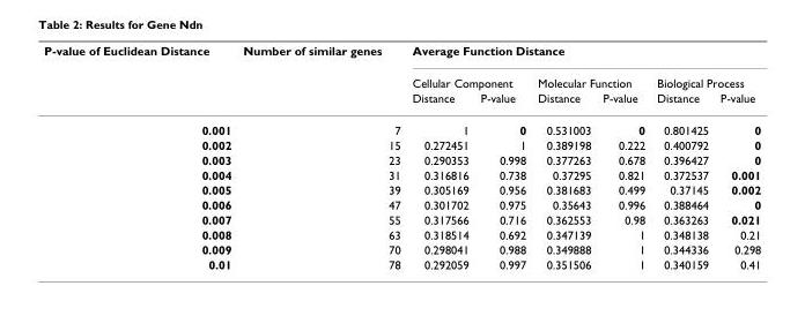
<table><thead><tr><td rowspan="3">P-value of Euclidean Distance</td><td rowspan="3">Number of similar genes</td><td colspan="6">Average Function Distance</td></tr><tr><td colspan="2">Cellular Component</td><td colspan="2">Molecular Function</td><td colspan="2">Biological Process</td></tr><tr><td>Distance</td><td>P-value</td><td>Distance</td><td>P-value</td><td>Distance</td><td>P-value</td></tr></thead><tbody><tr><td>0.001</td><td>7</td><td>1</td><td>0</td><td>0.531003</td><td>0</td><td>0.801425</td><td>0</td></tr><tr><td>0.002</td><td>15</td><td>0.272451</td><td>1</td><td>0.389198</td><td>0.222</td><td>0.400792</td><td>0</td></tr><tr><td>0.003</td><td>23</td><td>0.290353</td><td>0.998</td><td>0.377263</td><td>0.678</td><td>0.396427</td><td>0</td></tr><tr><td>0.004</td><td>31</td><td>0.316816</td><td>0.738</td><td>0.37295</td><td>0.821</td><td>0.372537</td><td>0.001</td></tr><tr><td>0.005</td><td>39</td><td>0.305169</td><td>0.956</td><td>0.381683</td><td>0.499</td><td>0.37145</td><td>0.002</td></tr><tr><td>0.006</td><td>47</td><td>0.301702</td><td>0.975</td><td>0.35643</td><td>0.996</td><td>0.388464</td><td>0</td></tr><tr><td>0.007</td><td>55</td><td>0.317566</td><td>0.716</td><td>0.362553</td><td>0.98</td><td>0.363263</td><td>0.021</td></tr><tr><td>0.008</td><td>63</td><td>0.318514</td><td>0.692</td><td>0.347139</td><td>1</td><td>0.348138</td><td>0.21</td></tr><tr><td>0.009</td><td>70</td><td>0.298041</td><td>0.988</td><td>0.349888</td><td>1</td><td>0.344336</td><td>0.298</td></tr><tr><td>0.01</td><td>78</td><td>0.292059</td><td>0.997</td><td>0.351506</td><td>1</td><td>0.340159</td><td>0.41</td></tr></tbody></table>